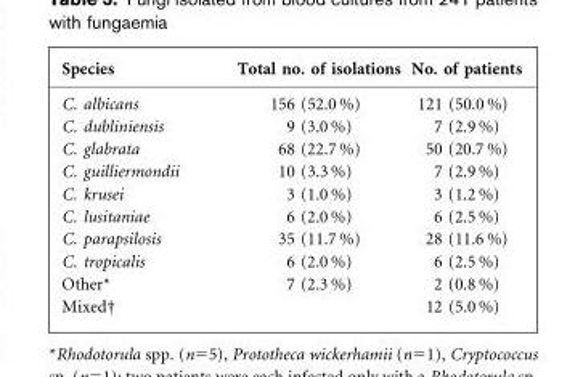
<table><thead><tr><td>Species</td><td>Total no. of isolations</td><td>No. of patients</td></tr></thead><tbody><tr><td>C. albicans</td><td>156 (52.0 %)</td><td>121 (50.0 %)</td></tr><tr><td>C. dubliniensis</td><td>9 (3.0 %)</td><td>7 (2.9 %)</td></tr><tr><td>C. glabrata</td><td>68 (22.7 %)</td><td>50 (20.7 %)</td></tr><tr><td>C. guilliermondii</td><td>10 (3.3 %)</td><td>7 (2.9 %)</td></tr><tr><td>C. krusei</td><td>3 (1.0 %)</td><td>3 (1.2 %)</td></tr><tr><td>C. lusitaniae</td><td>6 (2.0 %)</td><td>6 (2.5 %)</td></tr><tr><td>C. parapsilosis</td><td>35 (11.7 %)</td><td>28 (11.6 %)</td></tr><tr><td>C. tropicalis</td><td>6 (2.0 %)</td><td>6 (2.5 %)</td></tr><tr><td>Other*</td><td>7 (2.3 %)</td><td>2 (0.8 %)</td></tr><tr><td>Mixed†</td><td></td><td>12 (5.0 %)</td></tr></tbody></table>